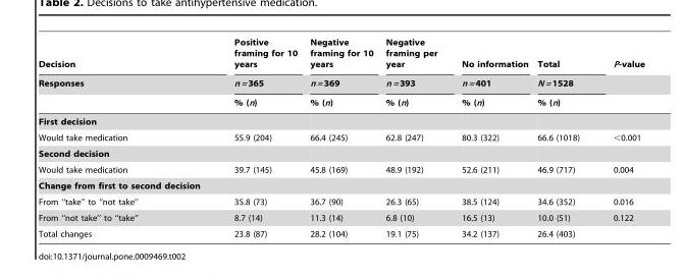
<table><thead><tr><td rowspan="3">Decision Responses</td><td rowspan="3">Positive framing for 10 years n = 365 % (n)</td><td rowspan="3">Negative framing for 10 years n = 369 % (n)</td><td rowspan="3">Negative framing per year n = 393 % (n)</td><td rowspan="3">No information n = 401 % (n)</td><td rowspan="3">Total N = 1528 % (n)</td><td rowspan="3">P-value</td></tr><tr></tr><tr></tr></thead><tbody><tr><td colspan="7">First decision</td></tr><tr><td>Would take medication</td><td>55.9 (204)</td><td>66.4 (245)</td><td>62.8 (247)</td><td>80.3 (322)</td><td>66.6 (1018)</td><td>&lt;0.001</td></tr><tr><td colspan="7">Second decision</td></tr><tr><td>Would take medication</td><td>39.7 (145)</td><td>45.8 (169)</td><td>48.9 (192)</td><td>52.6 (211)</td><td>46.9 (717)</td><td>0.004</td></tr><tr><td colspan="7">Change from first to second decision</td></tr><tr><td>From ‘‘take’’ to ‘‘not take’’</td><td>35.8 (73)</td><td>36.7 (90)</td><td>26.3 (65)</td><td>38.5 (124)</td><td>34.6 (352)</td><td>0.016</td></tr><tr><td>From ‘‘not take’’ to ‘‘take’’</td><td>8.7 (14)</td><td>11.3 (14)</td><td>6.8 (10)</td><td>16.5 (13)</td><td>10.0 (51)</td><td>0.122</td></tr><tr><td>Total changes</td><td>23.8 (87)</td><td>28.2 (104)</td><td>19.1 (75)</td><td>34.2 (137)</td><td>26.4 (403)</td><td></td></tr></tbody></table>